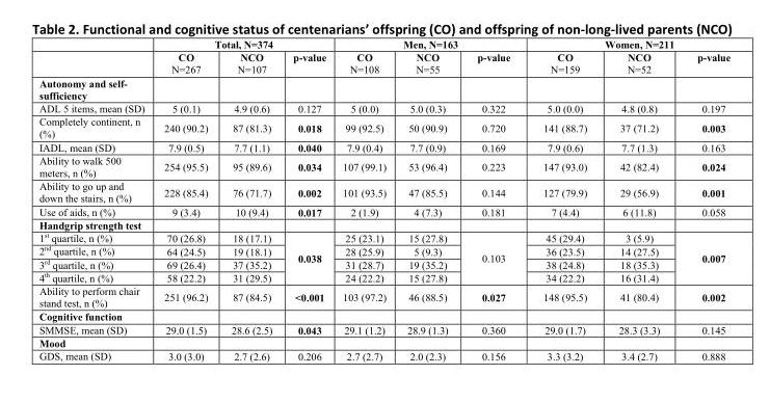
<table><thead><tr><td rowspan="2"></td><td colspan="3">Total, N=374</td><td colspan="3">Men, N=163</td><td colspan="3">Women, N=211</td></tr><tr><td>CO N=267</td><td>NCO N=107</td><td>p-value</td><td>CO N=108</td><td>NCO N=55</td><td>p-value</td><td>CO N=159</td><td>NCO N=52</td><td>p-value</td></tr></thead><tbody><tr><td colspan="10">Autonomy and self- sufficiency</td></tr><tr><td>ADL 5 items, mean (SD)</td><td>5 (0.1)</td><td>4.9 (0.6)</td><td>0.127</td><td>5 (0.0)</td><td>5.0 (0.3)</td><td>0.322</td><td>5.0 (0.0)</td><td>4.8 (0.8)</td><td>0.197</td></tr><tr><td>Completely continent, n (%)</td><td>240 (90.2)</td><td>87 (81.3)</td><td>0.018</td><td>99 (92.5)</td><td>50 (90.9)</td><td>0.720</td><td>141 (88.7)</td><td>37 (71.2)</td><td>0.003</td></tr><tr><td>IADL, mean (SD)</td><td>7.9 (0.5)</td><td>7.7 (1.1)</td><td>0.040</td><td>7.9 (0.4)</td><td>7.7 (0.9)</td><td>0.169</td><td>7.9 (0.6)</td><td>7.7 (1.3)</td><td>0.163</td></tr><tr><td>Ability to walk 500 meters, n (%)</td><td>254 (95.5)</td><td>95 (89.6)</td><td>0.034</td><td>107 (99.1)</td><td>53 (96.4)</td><td>0.223</td><td>147 (93.0)</td><td>42 (82.4)</td><td>0.024</td></tr><tr><td>Ability to go up and down the stairs, n (%)</td><td>228 (85.4)</td><td>76 (71.7)</td><td>0.002</td><td>101 (93.5)</td><td>47 (85.5)</td><td>0.144</td><td>127 (79.9)</td><td>29 (56.9)</td><td>0.001</td></tr><tr><td>Use of aids, n (%)</td><td>9 (3.4)</td><td>10 (9.4)</td><td>0.017</td><td>2 (1.9)</td><td>4 (7.3)</td><td>0.181</td><td>7 (4.4)</td><td>6 (11.8)</td><td>0.058</td></tr><tr><td colspan="10">Handgrip strength test</td></tr><tr><td>1<sup>st</sup> quartile, n (%)</td><td>70 (26.8)</td><td>18 (17.1)</td><td rowspan="4">0.038</td><td>25 (23.1)</td><td>15 (27.8)</td><td rowspan="4">0.103</td><td>45 (29.4)</td><td>3 (5.9)</td><td rowspan="4">0.007</td></tr><tr><td>2<sup>nd</sup> quartile, n (%)</td><td>64 (24.5)</td><td>19 (18.1)</td><td>28 (25.9)</td><td>5 (9.3)</td><td>36 (23.5)</td><td>14 (27.5)</td></tr><tr><td>3<sup>rd</sup> quartile, n (%)</td><td>69 (26.4)</td><td>37 (35.2)</td><td>31 (28.7)</td><td>19 (35.2)</td><td>38 (24.8)</td><td>18 (35.3)</td></tr><tr><td>4<sup>th</sup> quartile, n (%)</td><td>58 (22.2)</td><td>31 (29.5)</td><td>24 (22.2)</td><td>15 (27.8)</td><td>34 (22.2)</td><td>16 (31.4)</td></tr><tr><td>Ability to perform chair stand test, n (%)</td><td>251 (96.2)</td><td>87 (84.5)</td><td>&lt;0.001</td><td>103 (97.2)</td><td>46 (88.5)</td><td>0.027</td><td>148 (95.5)</td><td>41 (80.4)</td><td>0.002</td></tr><tr><td colspan="10">Cognitive function</td></tr><tr><td>SMMSE, mean (SD)</td><td>29.0 (1.5)</td><td>28.6 (2.5)</td><td>0.043</td><td>29.1 (1.2)</td><td>28.9 (1.3)</td><td>0.360</td><td>29.0 (1.7)</td><td>28.3 (3.3)</td><td>0.145</td></tr><tr><td colspan="10">Mood</td></tr><tr><td>GDS, mean (SD)</td><td>3.0 (3.0)</td><td>2.7 (2.6)</td><td>0.206</td><td>2.7 (2.7)</td><td>2.0 (2.3)</td><td>0.156</td><td>3.3 (3.2)</td><td>3.4 (2.7)</td><td>0.888</td></tr></tbody></table>